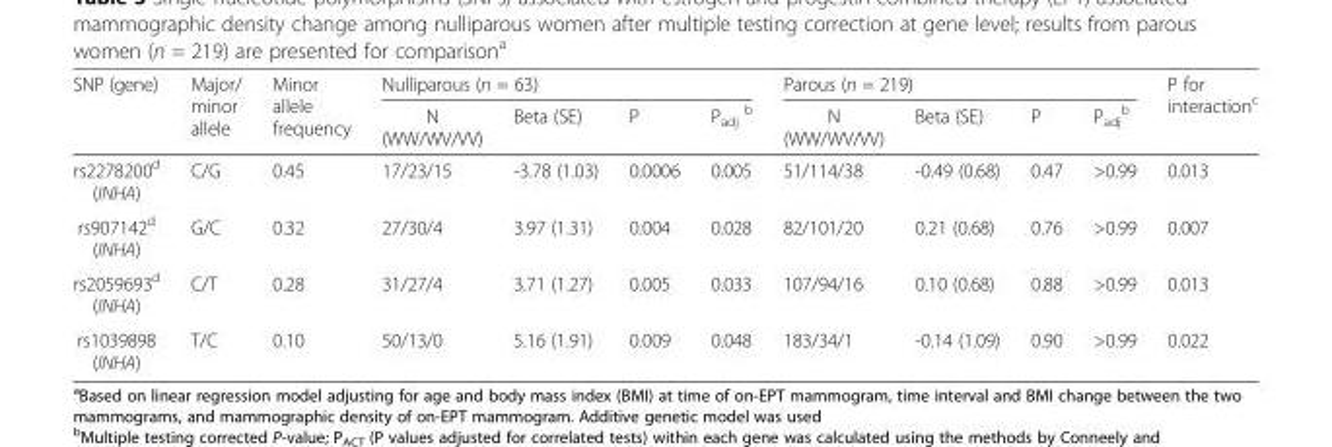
<table><thead><tr><td rowspan="2">SNP (gene)</td><td rowspan="2">Major/ minor allele</td><td rowspan="2">Minor allele frequency</td><td colspan="4">Nulliparous (n = 63)</td><td colspan="4">Parous (n = 219)</td><td rowspan="2">P for interaction<sup>c</sup></td></tr><tr><td>N (WW/WV/VV)</td><td>Beta (SE)</td><td>P</td><td>P<sub>adj</sub> <sup>b</sup></td><td>N (WW/WV/VV)</td><td>Beta (SE)</td><td>P</td><td>P<sub>adj</sub> <sup>b</sup></td></tr></thead><tbody><tr><td>rs2278200<sup>d</sup> (INHA)</td><td>C/G</td><td>0.45</td><td>17/23/15</td><td>-3.78 (1.03)</td><td>0.0006</td><td>0.005</td><td>51/114/38</td><td>-0.49 (0.68)</td><td>0.47</td><td>&gt;0.99</td><td>0.013</td></tr><tr><td>rs907142<sup>d</sup> (INHA)</td><td>G/C</td><td>0.32</td><td>27/30/4</td><td>3.97 (1.31)</td><td>0.004</td><td>0.028</td><td>82/101/20</td><td>0.21 (0.68)</td><td>0.76</td><td>&gt;0.99</td><td>0.007</td></tr><tr><td>rs2059693<sup>d</sup> (INHA)</td><td>C/T</td><td>0.28</td><td>31/27/4</td><td>3.71 (1.27)</td><td>0.005</td><td>0.033</td><td>107/94/16</td><td>0.10 (0.68)</td><td>0.88</td><td>&gt;0.99</td><td>0.013</td></tr><tr><td>rs1039898 (INHA)</td><td>T/C</td><td>0.10</td><td>50/13/0</td><td>5.16 (1.91)</td><td>0.009</td><td>0.048</td><td>183/34/1</td><td>-0.14 (1.09)</td><td>0.90</td><td>&gt;0.99</td><td>0.022</td></tr></tbody></table>